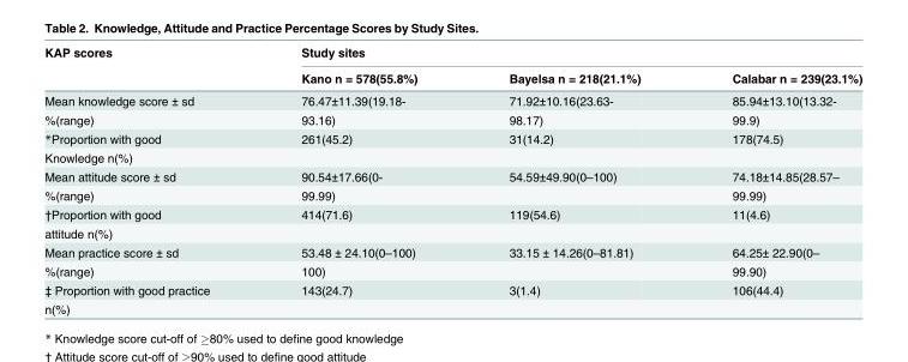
<table><thead><tr><td rowspan="2">KAP scores</td><td colspan="3">Study sites</td></tr><tr><td>Kano n = 578(55.8%)</td><td>Bayelsa n = 218(21.1%)</td><td>Calabar n = 239(23.1%)</td></tr></thead><tbody><tr><td>Mean knowledge score ± sd</td><td>76.47±11.39(19.18-</td><td>71.92±10.16(23.63-</td><td>85.94±13.10(13.32-</td></tr><tr><td>%(range)</td><td>93.16)</td><td>98.17)</td><td>99.9)</td></tr><tr><td>*Proportion with good</td><td>261(45.2)</td><td>31(14.2)</td><td>178(74.5)</td></tr><tr><td colspan="4">Knowledge n(%)</td></tr><tr><td>Mean attitude score ± sd</td><td>90.54±17.66(0-</td><td>54.59±49.90(0–100)</td><td>74.18±14.85(28.57–</td></tr><tr><td>%(range)</td><td>99.99)</td><td></td><td>99.99)</td></tr><tr><td>†Proportion with good</td><td>414(71.6)</td><td>119(54.6)</td><td>11(4.6)</td></tr><tr><td colspan="4">attitude n(%)</td></tr><tr><td>Mean practice score ± sd</td><td>53.48 ± 24.10(0–100)</td><td>33.15 ± 14.26(0–81.81)</td><td>64.25± 22.90(0–</td></tr><tr><td>%(range)</td><td>100)</td><td></td><td>99.90)</td></tr><tr><td>‡ Proportion with good practice</td><td>143(24.7)</td><td>3(1.4)</td><td>106(44.4)</td></tr><tr><td>n(%)</td><td></td><td></td><td></td></tr></tbody></table>